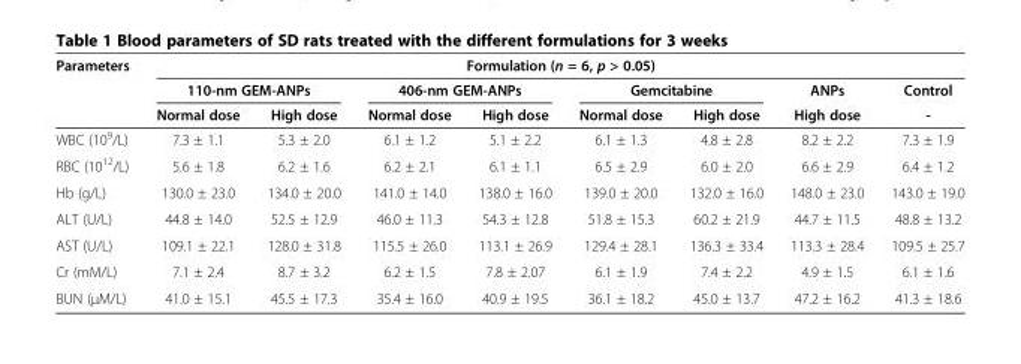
<table><thead><tr><td rowspan="3">Parameters</td><td colspan="8">Formulation (n = 6, p &gt; 0.05)</td></tr><tr><td colspan="2">110-nm GEM-ANPs</td><td colspan="2">406-nm GEM-ANPs</td><td colspan="2">Gemcitabine</td><td rowspan="2">ANPs High dose</td><td rowspan="2">Control -</td></tr><tr><td>Normal dose</td><td>High dose</td><td>Normal dose</td><td>High dose</td><td>Normal dose</td><td>High dose</td></tr></thead><tbody><tr><td>WBC (10<sup>9</sup>/L)</td><td>7.3 ± 1.1</td><td>5.3 ± 2.0</td><td>6.1 ± 1.2</td><td>5.1 ± 2.2</td><td>6.1 ± 1.3</td><td>4.8 ± 2.8</td><td>8.2 ± 2.2</td><td>7.3 ± 1.9</td></tr><tr><td>RBC (10<sup>12</sup>/L)</td><td>5.6 ± 1.8</td><td>6.2 ± 1.6</td><td>6.2 ± 2.1</td><td>6.1 ± 1.1</td><td>6.5 ± 2.9</td><td>6.0 ± 2.0</td><td>6.6 ± 2.9</td><td>6.4 ± 1.2</td></tr><tr><td>Hb (g/L)</td><td>130.0 ± 23.0</td><td>134.0 ± 20.0</td><td>141.0 ± 14.0</td><td>138.0 ± 16.0</td><td>139.0 ± 20.0</td><td>132.0 ± 16.0</td><td>148.0 ± 23.0</td><td>143.0 ± 19.0</td></tr><tr><td>ALT (U/L)</td><td>44.8 ± 14.0</td><td>52.5 ± 12.9</td><td>46.0 ± 11.3</td><td>54.3 ± 12.8</td><td>51.8 ± 15.3</td><td>60.2 ± 21.9</td><td>44.7 ± 11.5</td><td>48.8 ± 13.2</td></tr><tr><td>AST (U/L)</td><td>109.1 ± 22.1</td><td>128.0 ± 31.8</td><td>115.5 ± 26.0</td><td>113.1 ± 26.9</td><td>129.4 ± 28.1</td><td>136.3 ± 33.4</td><td>113.3 ± 28.4</td><td>109.5 ± 25.7</td></tr><tr><td>Cr (mM/L)</td><td>7.1 ± 2.4</td><td>8.7 ± 3.2</td><td>6.2 ± 1.5</td><td>7.8 ± 2.07</td><td>6.1 ± 1.9</td><td>7.4 ± 2.2</td><td>4.9 ± 1.5</td><td>6.1 ± 1.6</td></tr><tr><td>BUN (μM/L)</td><td>41.0 ± 15.1</td><td>45.5 ± 17.3</td><td>35.4 ± 16.0</td><td>40.9 ± 19.5</td><td>36.1 ± 18.2</td><td>45.0 ± 13.7</td><td>47.2 ± 16.2</td><td>41.3 ± 18.6</td></tr></tbody></table>